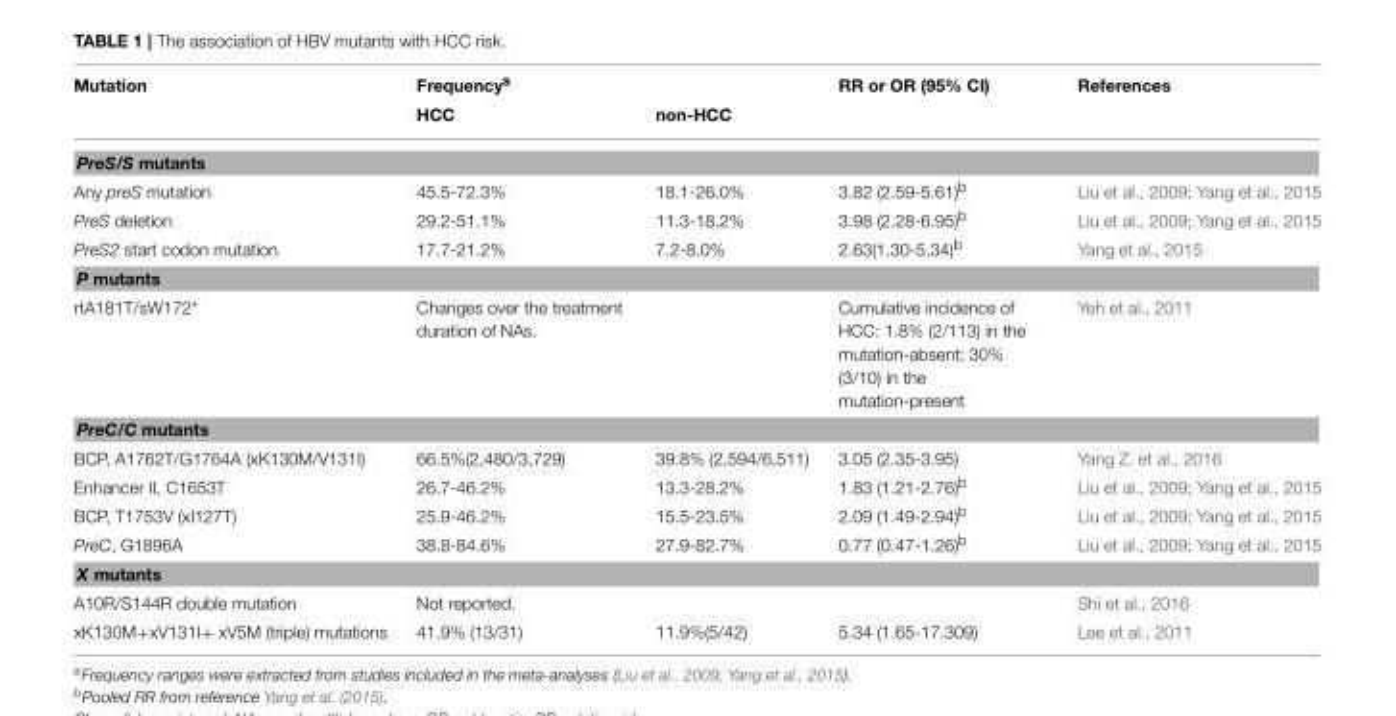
<table><thead><tr><td rowspan="2">Mutation</td><td rowspan="2">Frequency<sup>s</sup> HCC</td><td rowspan="2">non-HCC</td><td rowspan="2">RR or OR (95% CI)</td><td rowspan="2">References</td></tr><tr></tr></thead><tbody><tr><td colspan="5">PreS/S mutants</td></tr><tr><td>Any preS mutation</td><td>45.5-72.3%</td><td>18.1-26.0%</td><td>3.82 (2.59-5.61)<sup>b</sup></td><td>Liu et al., 2009; Yang et al., 2015</td></tr><tr><td>PreS deletion</td><td>29.2-51.1%</td><td>11.3-18.2%</td><td>3.98 (2.28-6.95)<sup>b</sup></td><td>Liu et al., 2009; Yang et al., 2015</td></tr><tr><td>PreS2 start codon mutation</td><td>17.7-21.2%</td><td>7.2-8.0%</td><td>2.63(1.30-5.34)<sup>b</sup></td><td>Yang et al., 2015</td></tr><tr><td colspan="5">P mutants</td></tr><tr><td>rtA181T/sW172*</td><td>Changes over the treatment duration of NAs.</td><td></td><td>Cumulative incidence of HCC: 1.8% (2/113) in the mutation-absent; 30% (3/10) in the mutation-present</td><td>Yeh et al., 2011</td></tr><tr><td colspan="5">PreC/C mutants</td></tr><tr><td>BCP, A1762T/G1764A (xK130M/V131I)</td><td>66.5%(2,480/3,729)</td><td>39.8% (2,594/6,511)</td><td>3.05 (2.35-3.95)</td><td>Yang Z. et al., 2016</td></tr><tr><td>Enhancer II, C1653T</td><td>26.7-46.2%</td><td>13.3-28.2%</td><td>1.83 (1.21-2.76)<sup>b</sup></td><td>Liu et al., 2009; Yang et al., 2015</td></tr><tr><td>BCP, T1753V (xI127T)</td><td>25.9-46.2%</td><td>15.5-23.5%</td><td>2.09 (1.49-2.94)<sup>b</sup></td><td>Liu et al., 2009; Yang et al., 2015</td></tr><tr><td>PreC, G1896A</td><td>38.8-84.6%</td><td>27.9-82.7%</td><td>0.77 (0.47-1.26)<sup>b</sup></td><td>Liu et al., 2009; Yang et al., 2015</td></tr><tr><td colspan="5">X mutants</td></tr><tr><td>A10R/S144R double mutation</td><td>Not reported.</td><td></td><td></td><td>Shi et al., 2016</td></tr><tr><td>xK130M+xV131I+ xV5M (triple) mutations</td><td>41.9% (13/31)</td><td>11.9%(5/42)</td><td>5.34 (1.65-17.309)</td><td>Lee et al., 2011</td></tr></tbody></table>